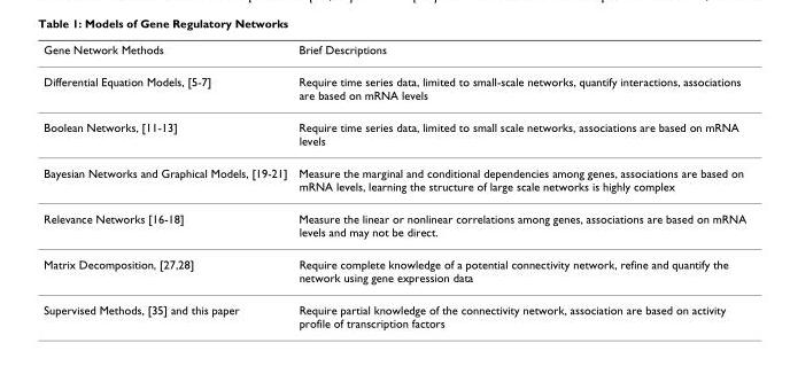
<table><thead><tr><td>Gene Network Methods</td><td>Brief Descriptions</td></tr></thead><tbody><tr><td>Differential Equation Models, [5-7]</td><td>Require time series data, limited to small-scale networks, quantify interactions, associations are based on mRNA levels</td></tr><tr><td>Boolean Networks, [11-13]</td><td>Require time series data, limited to small scale networks, associations are based on mRNA levels</td></tr><tr><td>Bayesian Networks and Graphical Models, [19-21]</td><td>Measure the marginal and conditional dependencies among genes, associations are based on mRNA levels, learning the structure of large scale networks is highly complex</td></tr><tr><td>Relevance Networks [16-18]</td><td>Measure the linear or nonlinear correlations among genes, associations are based on mRNA levels and may not be direct.</td></tr><tr><td>Matrix Decomposition, [27,28]</td><td>Require complete knowledge of a potential connectivity network, refine and quantify the network using gene expression data</td></tr><tr><td>Supervised Methods, [35] and this paper</td><td>Require partial knowledge of the connectivity network, association are based on activity profile of transcription factors</td></tr></tbody></table>